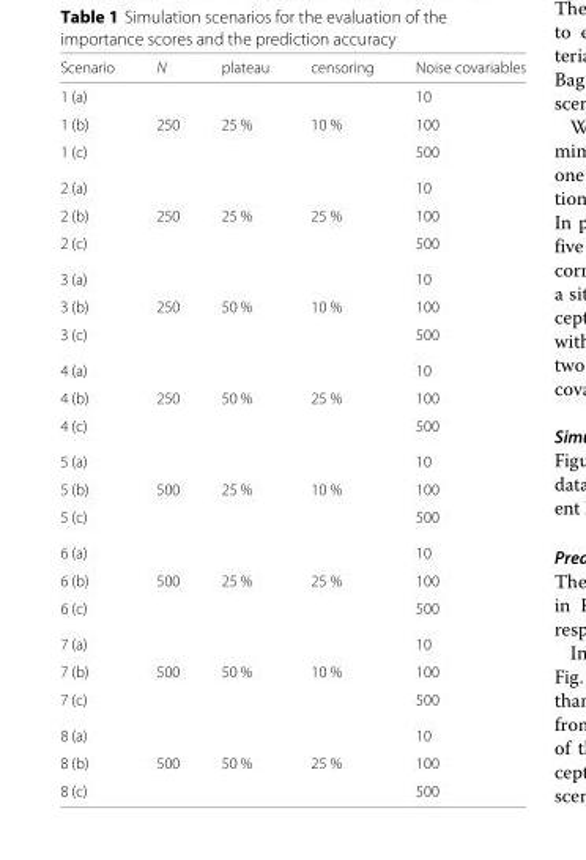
<table><thead><tr><td>Scenario</td><td>N</td><td>plateau</td><td>censoring</td><td>Noise covariables</td></tr></thead><tbody><tr><td>1 (a)</td><td></td><td></td><td></td><td>10</td></tr><tr><td>1 (b)</td><td>250</td><td>25 %</td><td>10 %</td><td>100</td></tr><tr><td>1 (c)</td><td></td><td></td><td></td><td>500</td></tr><tr><td>2 (a)</td><td></td><td></td><td></td><td>10</td></tr><tr><td>2 (b)</td><td>250</td><td>25 %</td><td>25 %</td><td>100</td></tr><tr><td>2 (c)</td><td></td><td></td><td></td><td>500</td></tr><tr><td>3 (a)</td><td></td><td></td><td></td><td>10</td></tr><tr><td>3 (b)</td><td>250</td><td>50 %</td><td>10 %</td><td>100</td></tr><tr><td>3 (c)</td><td></td><td></td><td></td><td>500</td></tr><tr><td>4 (a)</td><td></td><td></td><td></td><td>10</td></tr><tr><td>4 (b)</td><td>250</td><td>50 %</td><td>25 %</td><td>100</td></tr><tr><td>4 (c)</td><td></td><td></td><td></td><td>500</td></tr><tr><td>5 (a)</td><td></td><td></td><td></td><td>10</td></tr><tr><td>5 (b)</td><td>500</td><td>25 %</td><td>10 %</td><td>100</td></tr><tr><td>5 (c)</td><td></td><td></td><td></td><td>500</td></tr><tr><td>6 (a)</td><td></td><td></td><td></td><td>10</td></tr><tr><td>6 (b)</td><td>500</td><td>25 %</td><td>25 %</td><td>100</td></tr><tr><td>6 (c)</td><td></td><td></td><td></td><td>500</td></tr><tr><td>7 (a)</td><td></td><td></td><td></td><td>10</td></tr><tr><td>7 (b)</td><td>500</td><td>50 %</td><td>10 %</td><td>100</td></tr><tr><td>7 (c)</td><td></td><td></td><td></td><td>500</td></tr><tr><td>8 (a)</td><td></td><td></td><td></td><td>10</td></tr><tr><td>8 (b)</td><td>500</td><td>50 %</td><td>25 %</td><td>100</td></tr><tr><td>8 (c)</td><td></td><td></td><td></td><td>500</td></tr></tbody></table>